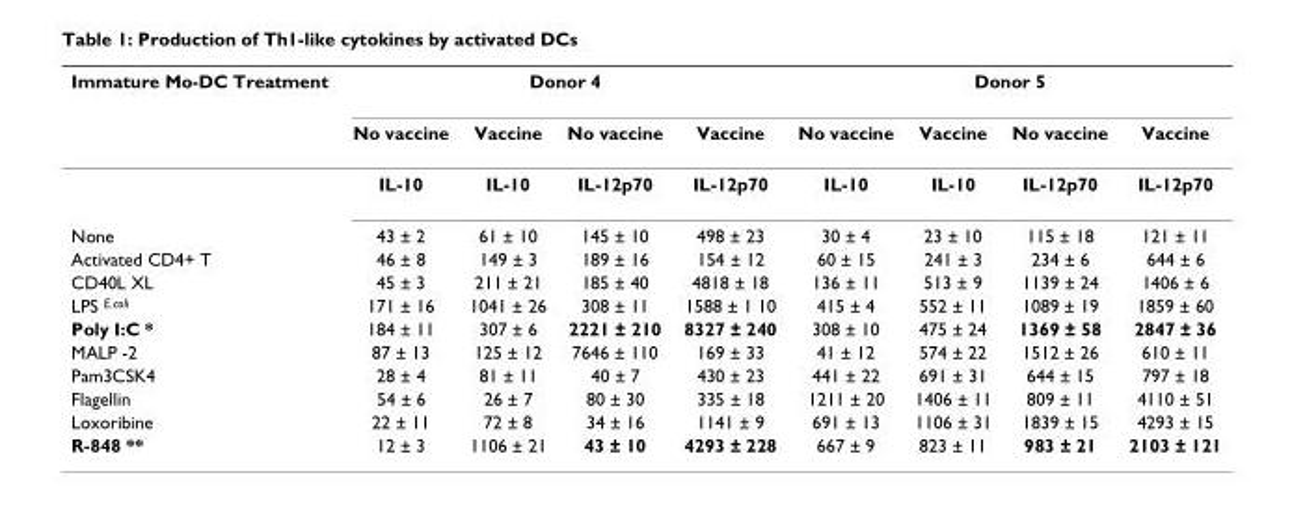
<table><thead><tr><td rowspan="2">Immature Mo-DC Treatment</td><td colspan="4">Donor 4</td><td colspan="4">Donor 5</td></tr><tr><td>No vaccine</td><td>Vaccine</td><td>No vaccine</td><td>Vaccine</td><td>No vaccine</td><td>Vaccine</td><td>No vaccine</td><td>Vaccine</td></tr></thead><tbody><tr><td></td><td>IL-10</td><td>IL-10</td><td>IL-12p70</td><td>IL-12p70</td><td>IL-10</td><td>IL-10</td><td>IL-12p70</td><td>IL-12p70</td></tr><tr><td>None</td><td>43 ± 2</td><td>61 ± 10</td><td>145 ± 10</td><td>498 ± 23</td><td>30 ± 4</td><td>23 ± 10</td><td>115 ± 18</td><td>121 ± 11</td></tr><tr><td>Activated CD4+ T</td><td>46 ± 8</td><td>149 ± 3</td><td>189 ± 16</td><td>154 ± 12</td><td>60 ± 15</td><td>241 ± 3</td><td>234 ± 6</td><td>644 ± 6</td></tr><tr><td>CD40L XL</td><td>45 ± 3</td><td>211 ± 21</td><td>185 ± 40</td><td>4818 ± 18</td><td>136 ± 11</td><td>513 ± 9</td><td>1139 ± 24</td><td>1406 ± 6</td></tr><tr><td>LPS <sup>E.coli</sup></td><td>171 ± 16</td><td>1041 ± 26</td><td>308 ± 11</td><td>1588 ± 1 10</td><td>415 ± 4</td><td>552 ± 11</td><td>1089 ± 19</td><td>1859 ± 60</td></tr><tr><td>Poly I:C *</td><td>184 ± 11</td><td>307 ± 6</td><td>2221 ± 210</td><td>8327 ± 240</td><td>308 ± 10</td><td>475 ± 24</td><td>1369 ± 58</td><td>2847 ± 36</td></tr><tr><td>MALP -2</td><td>87 ± 13</td><td>125 ± 12</td><td>7646 ± 110</td><td>169 ± 33</td><td>41 ± 12</td><td>574 ± 22</td><td>1512 ± 26</td><td>610 ± 11</td></tr><tr><td>Pam3CSK4</td><td>28 ± 4</td><td>81 ± 11</td><td>40 ± 7</td><td>430 ± 23</td><td>441 ± 22</td><td>691 ± 31</td><td>644 ± 15</td><td>797 ± 18</td></tr><tr><td>Flagellin</td><td>54 ± 6</td><td>26 ± 7</td><td>80 ± 30</td><td>335 ± 18</td><td>1211 ± 20</td><td>1406 ± 11</td><td>809 ± 11</td><td>4110 ± 51</td></tr><tr><td>Loxoribine</td><td>22 ± 11</td><td>72 ± 8</td><td>34 ± 16</td><td>1141 ± 9</td><td>691 ± 13</td><td>1106 ± 31</td><td>1839 ± 15</td><td>4293 ± 15</td></tr><tr><td>R-848 **</td><td>12 ± 3</td><td>1106 ± 21</td><td>43 ± 10</td><td>4293 ± 228</td><td>667 ± 9</td><td>823 ± 11</td><td>983 ± 21</td><td>2103 ± 121</td></tr></tbody></table>